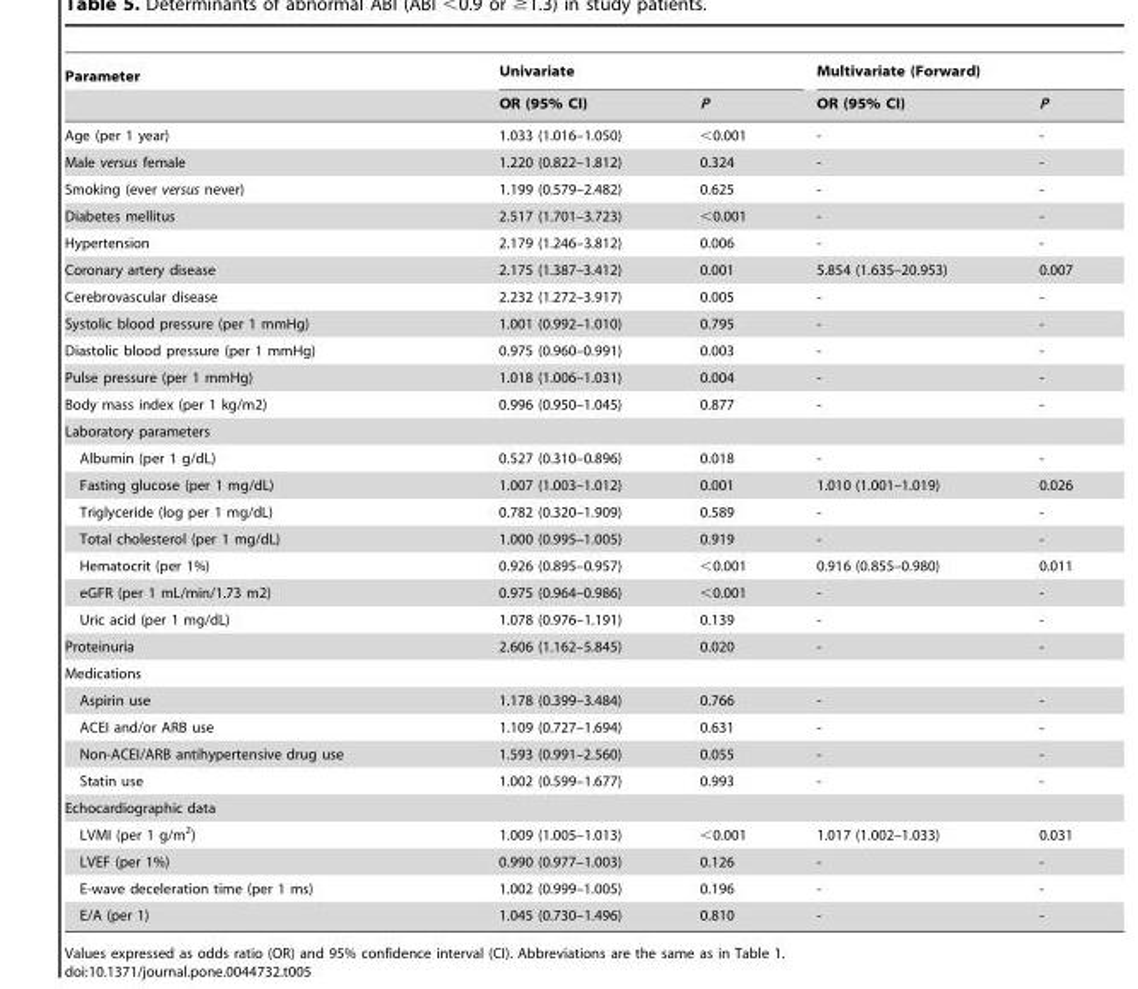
<table><thead><tr><td rowspan="2">Parameter</td><td colspan="2">Univariate</td><td colspan="2">Multivariate (Forward)</td></tr><tr><td>OR (95% CI)</td><td>P</td><td>OR (95% CI)</td><td>P</td></tr></thead><tbody><tr><td>Age (per 1 year)</td><td>1.033 (1.016–1.050)</td><td>&lt;0.001</td><td>-</td><td>-</td></tr><tr><td>Male versus female</td><td>1.220 (0.822–1.812)</td><td>0.324</td><td>-</td><td>-</td></tr><tr><td>Smoking (ever versus never)</td><td>1.199 (0.579–2.482)</td><td>0.625</td><td>-</td><td>-</td></tr><tr><td>Diabetes mellitus</td><td>2.517 (1.701–3.723)</td><td>&lt;0.001</td><td>-</td><td>-</td></tr><tr><td>Hypertension</td><td>2.179 (1.246–3.812)</td><td>0.006</td><td>-</td><td>-</td></tr><tr><td>Coronary artery disease</td><td>2.175 (1.387–3.412)</td><td>0.001</td><td>5.854 (1.635–20.953)</td><td>0.007</td></tr><tr><td>Cerebrovascular disease</td><td>2.232 (1.272–3.917)</td><td>0.005</td><td>-</td><td>-</td></tr><tr><td>Systolic blood pressure (per 1 mmHg)</td><td>1.001 (0.992–1.010)</td><td>0.795</td><td>-</td><td>-</td></tr><tr><td>Diastolic blood pressure (per 1 mmHg)</td><td>0.975 (0.960–0.991)</td><td>0.003</td><td>-</td><td>-</td></tr><tr><td>Pulse pressure (per 1 mmHg)</td><td>1.018 (1.006–1.031)</td><td>0.004</td><td>-</td><td>-</td></tr><tr><td>Body mass index (per 1 kg/m2)</td><td>0.996 (0.950–1.045)</td><td>0.877</td><td>-</td><td>-</td></tr><tr><td colspan="5">Laboratory parameters</td></tr><tr><td>Albumin (per 1 g/dL)</td><td>0.527 (0.310–0.896)</td><td>0.018</td><td>-</td><td>-</td></tr><tr><td>Fasting glucose (per 1 mg/dL)</td><td>1.007 (1.003–1.012)</td><td>0.001</td><td>1.010 (1.001–1.019)</td><td>0.026</td></tr><tr><td>Triglyceride (log per 1 mg/dL)</td><td>0.782 (0.320–1.909)</td><td>0.589</td><td>-</td><td>-</td></tr><tr><td>Total cholesterol (per 1 mg/dL)</td><td>1.000 (0.995–1.005)</td><td>0.919</td><td>-</td><td>-</td></tr><tr><td>Hematocrit (per 1%)</td><td>0.926 (0.895–0.957)</td><td>&lt;0.001</td><td>0.916 (0.855–0.980)</td><td>0.011</td></tr><tr><td>eGFR (per 1 mL/min/1.73 m2)</td><td>0.975 (0.964–0.986)</td><td>&lt;0.001</td><td>-</td><td>-</td></tr><tr><td>Uric acid (per 1 mg/dL)</td><td>1.078 (0.976–1.191)</td><td>0.139</td><td>-</td><td>-</td></tr><tr><td>Proteinuria</td><td>2.606 (1.162–5.845)</td><td>0.020</td><td>-</td><td>-</td></tr><tr><td colspan="5">Medications</td></tr><tr><td>Aspirin use</td><td>1.178 (0.399–3.484)</td><td>0.766</td><td>-</td><td>-</td></tr><tr><td>ACEI and/or ARB use</td><td>1.109 (0.727–1.694)</td><td>0.631</td><td>-</td><td>-</td></tr><tr><td>Non-ACEI/ARB antihypertensive drug use</td><td>1.593 (0.991–2.560)</td><td>0.055</td><td>-</td><td>-</td></tr><tr><td>Statin use</td><td>1.002 (0.599–1.677)</td><td>0.993</td><td>-</td><td>-</td></tr><tr><td colspan="5">Echocardiographic data</td></tr><tr><td>LVMI (per 1 g/m<sup>2</sup>)</td><td>1.009 (1.005–1.013)</td><td>&lt;0.001</td><td>1.017 (1.002–1.033)</td><td>0.031</td></tr><tr><td>LVEF (per 1%)</td><td>0.990 (0.977–1.003)</td><td>0.126</td><td>-</td><td>-</td></tr><tr><td>E-wave deceleration time (per 1 ms)</td><td>1.002 (0.999–1.005)</td><td>0.196</td><td>-</td><td>-</td></tr><tr><td>E/A (per 1)</td><td>1.045 (0.730–1.496)</td><td>0.810</td><td>-</td><td>-</td></tr></tbody></table>